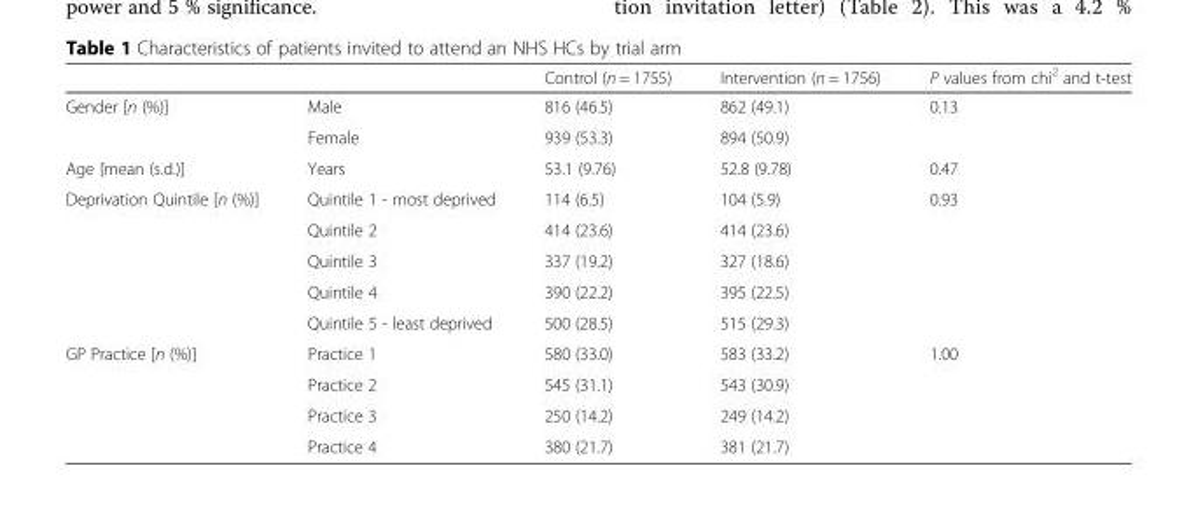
<table><thead><tr><td></td><td></td><td>Control (n = 1755)</td><td>Intervention (n = 1756)</td><td>P values from chi<sup>2</sup> and t-test</td></tr></thead><tbody><tr><td rowspan="2">Gender [n (%)]</td><td>Male</td><td>816 (46.5)</td><td>862 (49.1)</td><td>0.13</td></tr><tr><td>Female</td><td>939 (53.3)</td><td>894 (50.9)</td><td></td></tr><tr><td>Age [mean (s.d.)]</td><td>Years</td><td>53.1 (9.76)</td><td>52.8 (9.78)</td><td>0.47</td></tr><tr><td rowspan="5">Deprivation Quintile [n (%)]</td><td>Quintile 1 - most deprived</td><td>114 (6.5)</td><td>104 (5.9)</td><td>0.93</td></tr><tr><td>Quintile 2</td><td>414 (23.6)</td><td>414 (23.6)</td><td></td></tr><tr><td>Quintile 3</td><td>337 (19.2)</td><td>327 (18.6)</td><td></td></tr><tr><td>Quintile 4</td><td>390 (22.2)</td><td>395 (22.5)</td><td></td></tr><tr><td>Quintile 5 - least deprived</td><td>500 (28.5)</td><td>515 (29.3)</td><td></td></tr><tr><td rowspan="4">GP Practice [n (%)]</td><td>Practice 1</td><td>580 (33.0)</td><td>583 (33.2)</td><td>1.00</td></tr><tr><td>Practice 2</td><td>545 (31.1)</td><td>543 (30.9)</td><td></td></tr><tr><td>Practice 3</td><td>250 (14.2)</td><td>249 (14.2)</td><td></td></tr><tr><td>Practice 4</td><td>380 (21.7)</td><td>381 (21.7)</td><td></td></tr></tbody></table>